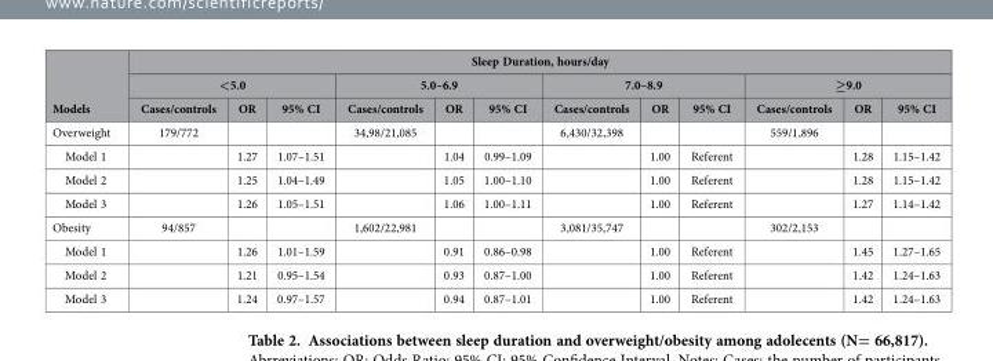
<table><thead><tr><td rowspan="3">Models</td><td colspan="12">Sleep Duration, hours/day</td></tr><tr><td colspan="3">&lt;5.0</td><td colspan="3">5.0–6.9</td><td colspan="3">7.0–8.9</td><td colspan="3">≥9.0</td></tr><tr><td>Cases/controls</td><td>OR</td><td>95% CI</td><td>Cases/controls</td><td>OR</td><td>95% CI</td><td>Cases/controls</td><td>OR</td><td>95% CI</td><td>Cases/controls</td><td>OR</td><td>95% CI</td></tr></thead><tbody><tr><td>Overweight</td><td>179/772</td><td></td><td></td><td>34,98/21,085</td><td></td><td></td><td>6,430/32,398</td><td></td><td></td><td>559/1,896</td><td></td><td></td></tr><tr><td>Model 1</td><td></td><td>1.27</td><td>1.07–1.51</td><td></td><td>1.04</td><td>0.99–1.09</td><td></td><td>1.00</td><td>Referent</td><td></td><td>1.28</td><td>1.15–1.42</td></tr><tr><td>Model 2</td><td></td><td>1.25</td><td>1.04–1.49</td><td></td><td>1.05</td><td>1.00–1.10</td><td></td><td>1.00</td><td>Referent</td><td></td><td>1.28</td><td>1.15–1.42</td></tr><tr><td>Model 3</td><td></td><td>1.26</td><td>1.05–1.51</td><td></td><td>1.06</td><td>1.00–1.11</td><td></td><td>1.00</td><td>Referent</td><td></td><td>1.27</td><td>1.14–1.42</td></tr><tr><td>Obesity</td><td>94/857</td><td></td><td></td><td>1,602/22,981</td><td></td><td></td><td>3,081/35,747</td><td></td><td></td><td>302/2,153</td><td></td><td></td></tr><tr><td>Model 1</td><td></td><td>1.26</td><td>1.01–1.59</td><td></td><td>0.91</td><td>0.86–0.98</td><td></td><td>1.00</td><td>Referent</td><td></td><td>1.45</td><td>1.27–1.65</td></tr><tr><td>Model 2</td><td></td><td>1.21</td><td>0.95–1.54</td><td></td><td>0.93</td><td>0.87–1.00</td><td></td><td>1.00</td><td>Referent</td><td></td><td>1.42</td><td>1.24–1.63</td></tr><tr><td>Model 3</td><td></td><td>1.24</td><td>0.97–1.57</td><td></td><td>0.94</td><td>0.87–1.01</td><td></td><td>1.00</td><td>Referent</td><td></td><td>1.42</td><td>1.24–1.63</td></tr></tbody></table>